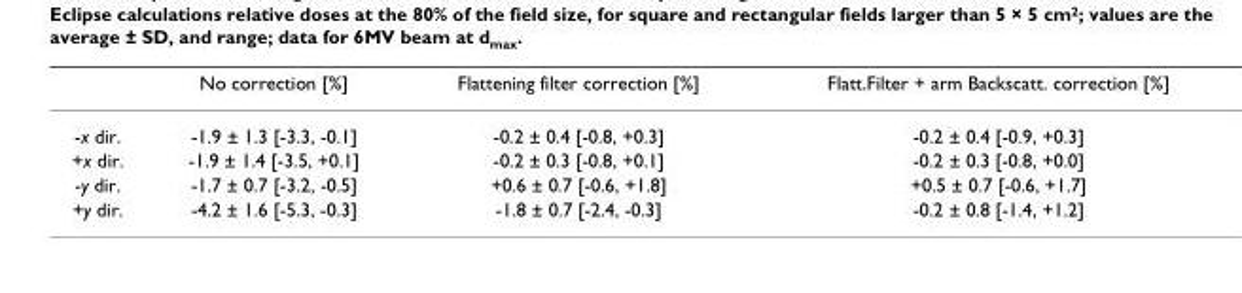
<table><thead><tr><td></td><td>No correction [%]</td><td>Flattening filter correction [%]</td><td>Flatt.Filter + arm Backscatt. correction [%]</td></tr></thead><tbody><tr><td>-x dir.</td><td>-1.9 ± 1.3 [-3.3, -0.1]</td><td>-0.2 ± 0.4 [-0.8, +0.3]</td><td>-0.2 ± 0.4 [-0.9, +0.3]</td></tr><tr><td>+x dir.</td><td>-1.9 ± 1.4 [-3.5, +0.1]</td><td>-0.2 ± 0.3 [-0.8, +0.1]</td><td>-0.2 ± 0.3 [-0.8, +0.0]</td></tr><tr><td>-y dir.</td><td>-1.7 ± 0.7 [-3.2, -0.5]</td><td>+0.6 ± 0.7 [-0.6, +1.8]</td><td>+0.5 ± 0.7 [-0.6, +1.7]</td></tr><tr><td>+y dir.</td><td>-4.2 ± 1.6 [-5.3, -0.3]</td><td>-1.8 ± 0.7 [-2.4, -0.3]</td><td>-0.2 ± 0.8 [-1.4, +1.2]</td></tr></tbody></table>